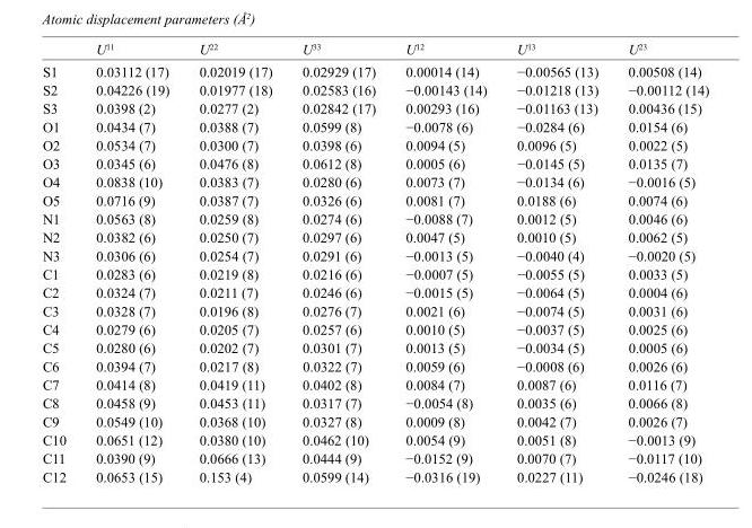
<table><thead><tr><td></td><td>U<sup>11</sup></td><td>U<sup>22</sup></td><td>U<sup>33</sup></td><td>U<sup>12</sup></td><td>U<sup>13</sup></td><td>U<sup>23</sup></td></tr></thead><tbody><tr><td>S1</td><td>0.03112 (17)</td><td>0.02019 (17)</td><td>0.02929 (17)</td><td>0.00014 (14)</td><td>−0.00565 (13)</td><td>0.00508 (14)</td></tr><tr><td>S2</td><td>0.04226 (19)</td><td>0.01977 (18)</td><td>0.02583 (16)</td><td>−0.00143 (14)</td><td>−0.01218 (13)</td><td>−0.00112 (14)</td></tr><tr><td>S3</td><td>0.0398 (2)</td><td>0.0277 (2)</td><td>0.02842 (17)</td><td>0.00293 (16)</td><td>−0.01163 (13)</td><td>0.00436 (15)</td></tr><tr><td>O1</td><td>0.0434 (7)</td><td>0.0388 (7)</td><td>0.0599 (8)</td><td>−0.0078 (6)</td><td>−0.0284 (6)</td><td>0.0154 (6)</td></tr><tr><td>O2</td><td>0.0534 (7)</td><td>0.0300 (7)</td><td>0.0398 (6)</td><td>0.0094 (5)</td><td>0.0096 (5)</td><td>0.0022 (5)</td></tr><tr><td>O3</td><td>0.0345 (6)</td><td>0.0476 (8)</td><td>0.0612 (8)</td><td>0.0005 (6)</td><td>−0.0145 (5)</td><td>0.0135 (7)</td></tr><tr><td>O4</td><td>0.0838 (10)</td><td>0.0383 (7)</td><td>0.0280 (6)</td><td>0.0073 (7)</td><td>−0.0134 (6)</td><td>−0.0016 (5)</td></tr><tr><td>O5</td><td>0.0716 (9)</td><td>0.0387 (7)</td><td>0.0326 (6)</td><td>0.0081 (7)</td><td>0.0188 (6)</td><td>0.0074 (6)</td></tr><tr><td>N1</td><td>0.0563 (8)</td><td>0.0259 (8)</td><td>0.0274 (6)</td><td>−0.0088 (7)</td><td>0.0012 (5)</td><td>0.0046 (6)</td></tr><tr><td>N2</td><td>0.0382 (6)</td><td>0.0250 (7)</td><td>0.0297 (6)</td><td>0.0047 (5)</td><td>0.0010 (5)</td><td>0.0062 (5)</td></tr><tr><td>N3</td><td>0.0306 (6)</td><td>0.0254 (7)</td><td>0.0291 (6)</td><td>−0.0013 (5)</td><td>−0.0040 (4)</td><td>−0.0020 (5)</td></tr><tr><td>C1</td><td>0.0283 (6)</td><td>0.0219 (8)</td><td>0.0216 (6)</td><td>−0.0007 (5)</td><td>−0.0055 (5)</td><td>0.0033 (5)</td></tr><tr><td>C2</td><td>0.0324 (7)</td><td>0.0211 (7)</td><td>0.0246 (6)</td><td>−0.0015 (5)</td><td>−0.0064 (5)</td><td>0.0004 (6)</td></tr><tr><td>C3</td><td>0.0328 (7)</td><td>0.0196 (8)</td><td>0.0276 (7)</td><td>0.0021 (6)</td><td>−0.0074 (5)</td><td>0.0031 (6)</td></tr><tr><td>C4</td><td>0.0279 (6)</td><td>0.0205 (7)</td><td>0.0257 (6)</td><td>0.0010 (5)</td><td>−0.0037 (5)</td><td>0.0025 (6)</td></tr><tr><td>C5</td><td>0.0280 (6)</td><td>0.0202 (7)</td><td>0.0301 (7)</td><td>0.0013 (5)</td><td>−0.0034 (5)</td><td>0.0005 (6)</td></tr><tr><td>C6</td><td>0.0394 (7)</td><td>0.0217 (8)</td><td>0.0322 (7)</td><td>0.0059 (6)</td><td>−0.0008 (6)</td><td>0.0026 (6)</td></tr><tr><td>C7</td><td>0.0414 (8)</td><td>0.0419 (11)</td><td>0.0402 (8)</td><td>0.0084 (7)</td><td>0.0087 (6)</td><td>0.0116 (7)</td></tr><tr><td>C8</td><td>0.0458 (9)</td><td>0.0453 (11)</td><td>0.0317 (7)</td><td>−0.0054 (8)</td><td>0.0035 (6)</td><td>0.0066 (8)</td></tr><tr><td>C9</td><td>0.0549 (10)</td><td>0.0368 (10)</td><td>0.0327 (8)</td><td>0.0009 (8)</td><td>0.0042 (7)</td><td>0.0026 (7)</td></tr><tr><td>C10</td><td>0.0651 (12)</td><td>0.0380 (10)</td><td>0.0462 (10)</td><td>0.0054 (9)</td><td>0.0051 (8)</td><td>−0.0013 (9)</td></tr><tr><td>C11</td><td>0.0390 (9)</td><td>0.0666 (13)</td><td>0.0444 (9)</td><td>−0.0152 (9)</td><td>0.0070 (7)</td><td>−0.0117 (10)</td></tr><tr><td>C12</td><td>0.0653 (15)</td><td>0.153 (4)</td><td>0.0599 (14)</td><td>−0.0316 (19)</td><td>0.0227 (11)</td><td>−0.0246 (18)</td></tr></tbody></table>